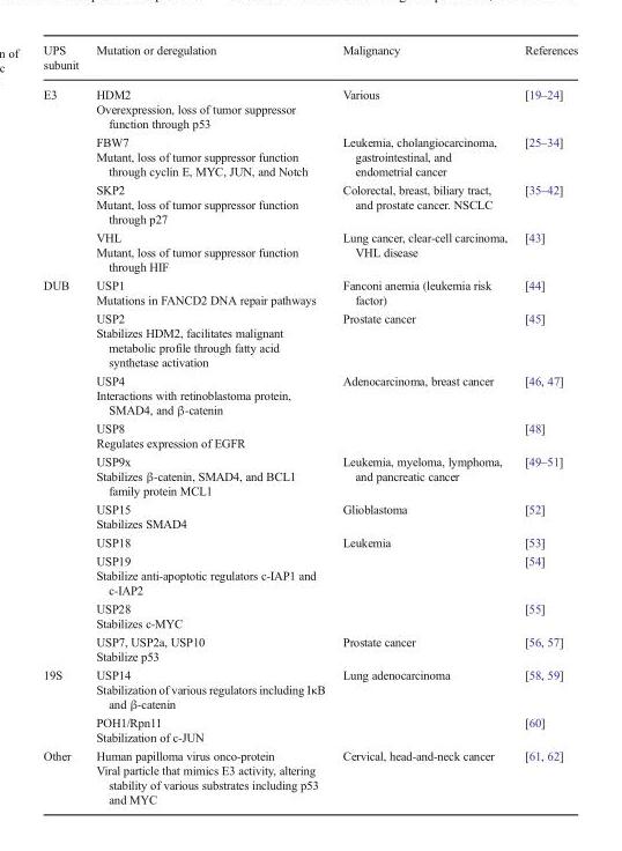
<table><thead><tr><td>UPS subunit</td><td>Mutation or deregulation</td><td>Malignancy</td><td>References</td></tr></thead><tbody><tr><td rowspan="8">E3</td><td>HDM2</td><td rowspan="2">Various</td><td rowspan="2">[19–24]</td></tr><tr><td>Overexpression, loss of tumor suppressor function through p53</td></tr><tr><td>FBW7</td><td rowspan="2">Leukemia, cholangiocarcinoma, gastrointestinal, and endometrial cancer</td><td rowspan="2">[25–34]</td></tr><tr><td>Mutant, loss of tumor suppressor function through cyclin E, MYC, JUN, and Notch</td></tr><tr><td>SKP2</td><td rowspan="2">Colorectal, breast, biliary tract, and prostate cancer. NSCLC</td><td rowspan="2">[35–42]</td></tr><tr><td>Mutant, loss of tumor suppressor function through p27</td></tr><tr><td>VHL</td><td rowspan="2">Lung cancer, clear-cell carcinoma, VHL disease</td><td rowspan="2">[43]</td></tr><tr><td>Mutant, loss of tumor suppressor function through HIF</td></tr><tr><td rowspan="19">DUB</td><td>USP1</td><td rowspan="2">Fanconi anemia (leukemia risk factor)</td><td rowspan="2">[44]</td></tr><tr><td>Mutations in FANCD2 DNA repair pathways</td></tr><tr><td>USP2</td><td rowspan="2">Prostate cancer</td><td rowspan="2">[45]</td></tr><tr><td>Stabilizes HDM2, facilitates malignant metabolic profile through fatty acid synthetase activation</td></tr><tr><td>USP4</td><td rowspan="2">Adenocarcinoma, breast cancer</td><td rowspan="2">[46, 47]</td></tr><tr><td>Interactions with retinoblastoma protein, SMAD4, and β-catenin</td></tr><tr><td>USP8</td><td rowspan="2"></td><td rowspan="2">[48]</td></tr><tr><td>Regulates expression of EGFR</td></tr><tr><td>USP9x</td><td rowspan="2">Leukemia, myeloma, lymphoma, and pancreatic cancer</td><td rowspan="2">[49–51]</td></tr><tr><td>Stabilizes β-catenin, SMAD4, and BCL1 family protein MCL1</td></tr><tr><td>USP15</td><td rowspan="2">Glioblastoma</td><td rowspan="2">[52]</td></tr><tr><td>Stabilizes SMAD4</td></tr><tr><td>USP18</td><td>Leukemia</td><td>[53]</td></tr><tr><td>USP19</td><td rowspan="2"></td><td rowspan="2">[54]</td></tr><tr><td>Stabilize anti-apoptotic regulators c-IAP1 and c-IAP2</td></tr><tr><td>USP28</td><td rowspan="2"></td><td rowspan="2">[55]</td></tr><tr><td>Stabilizes c-MYC</td></tr><tr><td>USP7, USP2a, USP10</td><td rowspan="2">Prostate cancer</td><td rowspan="2">[56, 57]</td></tr><tr><td>Stabilize p53</td></tr><tr><td rowspan="4">19S</td><td>USP14</td><td rowspan="2">Lung adenocarcinoma</td><td rowspan="2">[58, 59]</td></tr><tr><td>Stabilization of various regulators including IκB and β-catenin</td></tr><tr><td>POH1/Rpn11</td><td rowspan="2"></td><td rowspan="2">[60]</td></tr><tr><td>Stabilization of c-JUN</td></tr><tr><td rowspan="2">Other</td><td>Human papilloma virus onco-protein</td><td rowspan="2">Cervical, head-and-neck cancer</td><td rowspan="2">[61, 62]</td></tr><tr><td>Viral particle that mimics E3 activity, altering stability of various substrates including p53 and MYC</td></tr></tbody></table>